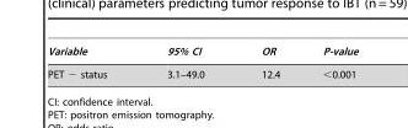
<table><thead><tr><td>Variable</td><td>95% CI</td><td>OR</td><td>P-value</td></tr></thead><tbody><tr><td>PET − status</td><td>3.1–49.0</td><td>12.4</td><td>&lt;0.001</td></tr></tbody></table>